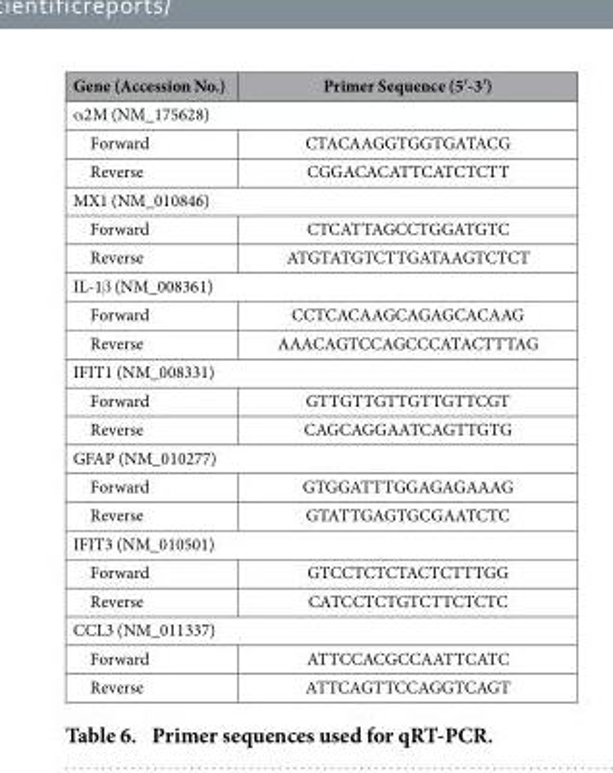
<table><thead><tr><td>Gene (Accession No.)</td><td>Primer Sequence (5′ -3′ )</td></tr></thead><tbody><tr><td colspan="2">α 2M (NM_175628)</td></tr><tr><td>Forward</td><td>CTACAAGGTGGTGATACG</td></tr><tr><td>Reverse</td><td>CGGACACATTCATCTCTT</td></tr><tr><td colspan="2">MX1 (NM_010846)</td></tr><tr><td>Forward</td><td>CTCATTAGCCTGGATGTC</td></tr><tr><td>Reverse</td><td>ATGTATGTCTTGATAAGTCTCT</td></tr><tr><td colspan="2">IL-1β (NM_008361)</td></tr><tr><td>Forward</td><td>CCTCACAAGCAGAGCACAAG</td></tr><tr><td>Reverse</td><td>AAACAGTCCAGCCCATACTTTAG</td></tr><tr><td colspan="2">IFIT1 (NM_008331)</td></tr><tr><td>Forward</td><td>GTTGTTGTTGTTGTTCGT</td></tr><tr><td>Reverse</td><td>CAGCAGGAATCAGTTGTG</td></tr><tr><td colspan="2">GFAP (NM_010277)</td></tr><tr><td>Forward</td><td>GTGGATTTGGAGAGAAAG</td></tr><tr><td>Reverse</td><td>GTATTGAGTGCGAATCTC</td></tr><tr><td colspan="2">IFIT3 (NM_010501)</td></tr><tr><td>Forward</td><td>GTCCTCTCTACTCTTTGG</td></tr><tr><td>Reverse</td><td>CATCCTCTGTCTTCTCTC</td></tr><tr><td colspan="2">CCL3 (NM_011337)</td></tr><tr><td>Forward</td><td>ATTCCACGCCAATTCATC</td></tr><tr><td>Reverse</td><td>ATTCAGTTCCAGGTCAGT</td></tr></tbody></table>